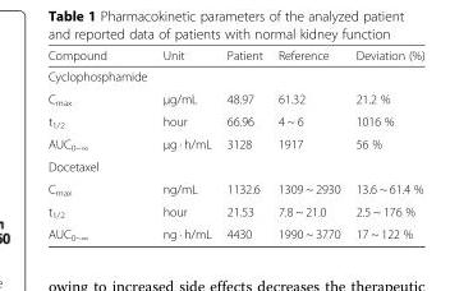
<table><thead><tr><td>Compound</td><td>Unit</td><td>Patient</td><td>Reference</td><td>Deviation (%)</td></tr></thead><tbody><tr><td colspan="5">Cyclophosphamide</td></tr><tr><td>C<sub>max</sub></td><td>μg/mL</td><td>48.97</td><td>61.32</td><td>21.2 %</td></tr><tr><td>t<sub>1/2</sub></td><td>hour</td><td>66.96</td><td>4 ~ 6</td><td>1016 %</td></tr><tr><td>AUC<sub>0~∞</sub></td><td>μg · h/mL</td><td>3128</td><td>1917</td><td>56 %</td></tr><tr><td colspan="5">Docetaxel</td></tr><tr><td>C<sub>max</sub></td><td>ng/mL</td><td>1132.6</td><td>1309 ~ 2930</td><td>13.6 ~ 61.4 %</td></tr><tr><td>t<sub>1/2</sub></td><td>hour</td><td>21.53</td><td>7.8 ~ 21.0</td><td>2.5 ~ 176 %</td></tr><tr><td>AUC<sub>0~∞</sub></td><td>ng · h/mL</td><td>4430</td><td>1990 ~ 3770</td><td>17 ~ 122 %</td></tr></tbody></table>